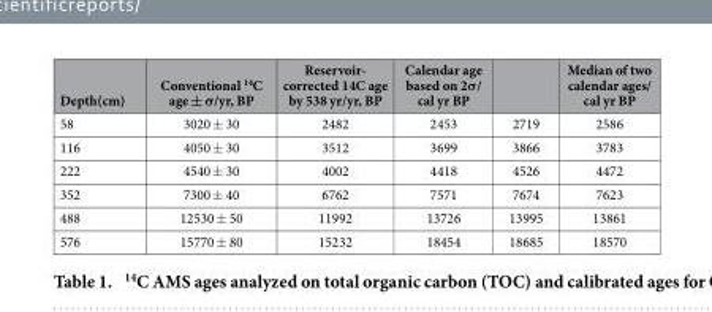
<table><thead><tr><td>Depth(cm)</td><td>Conventional <sup>14</sup>C age ± σ/yr, BP</td><td>Reservoir- corrected 14C age by 538 yr/yr, BP</td><td>Calendar age based on 2σ/ cal yr BP</td><td></td><td>Median of two calendar ages/ cal yr BP</td></tr></thead><tbody><tr><td>58</td><td>3020 ± 30</td><td>2482</td><td>2453</td><td>2719</td><td>2586</td></tr><tr><td>116</td><td>4050 ± 30</td><td>3512</td><td>3699</td><td>3866</td><td>3783</td></tr><tr><td>222</td><td>4540 ± 30</td><td>4002</td><td>4418</td><td>4526</td><td>4472</td></tr><tr><td>352</td><td>7300 ± 40</td><td>6762</td><td>7571</td><td>7674</td><td>7623</td></tr><tr><td>488</td><td>12530 ± 50</td><td>11992</td><td>13726</td><td>13995</td><td>13861</td></tr><tr><td>576</td><td>15770 ± 80</td><td>15232</td><td>18454</td><td>18685</td><td>18570</td></tr></tbody></table>